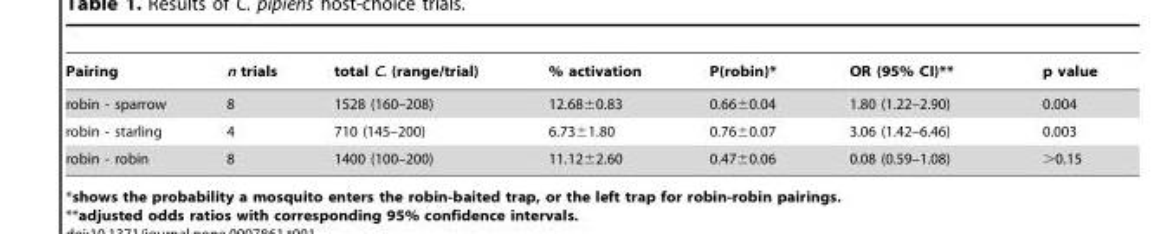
<table><thead><tr><td>Pairing</td><td>n trials</td><td>total C. (range/trial)</td><td>% activation</td><td>P(robin)*</td><td>OR (95% CI)**</td><td>p value</td></tr></thead><tbody><tr><td>robin - sparrow</td><td>8</td><td>1528 (160–208)</td><td>12.68±0.83</td><td>0.66±0.04</td><td>1.80 (1.22–2.90)</td><td>0.004</td></tr><tr><td>robin - starling</td><td>4</td><td>710 (145–200)</td><td>6.73±1.80</td><td>0.76±0.07</td><td>3.06 (1.42–6.46)</td><td>0.003</td></tr><tr><td>robin - robin</td><td>8</td><td>1400 (100–200)</td><td>11.12±2.60</td><td>0.47±0.06</td><td>0.08 (0.59–1.08)</td><td>&gt;0.15</td></tr></tbody></table>